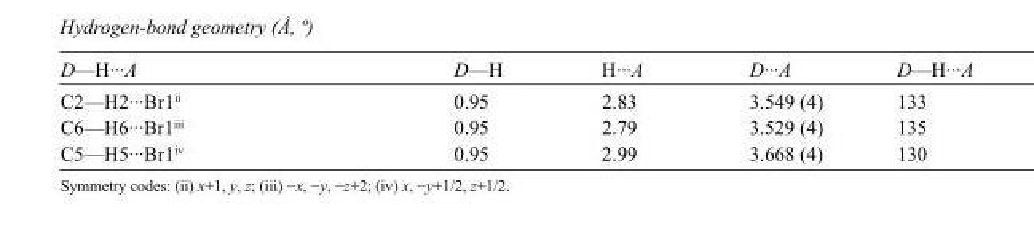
<table><tbody><tr><td>D—H···A</td><td>D—H</td><td>H···A</td><td>D···A</td><td>D—H···A</td></tr><tr><td>C2—H2···Br1<sup>ii</sup></td><td>0.95</td><td>2.83</td><td>3.549 (4)</td><td>133</td></tr><tr><td>C6—H6···Br1<sup>iii</sup></td><td>0.95</td><td>2.79</td><td>3.529 (4)</td><td>135</td></tr><tr><td>C5—H5···Br1<sup>iv</sup></td><td>0.95</td><td>2.99</td><td>3.668 (4)</td><td>130</td></tr></tbody></table>